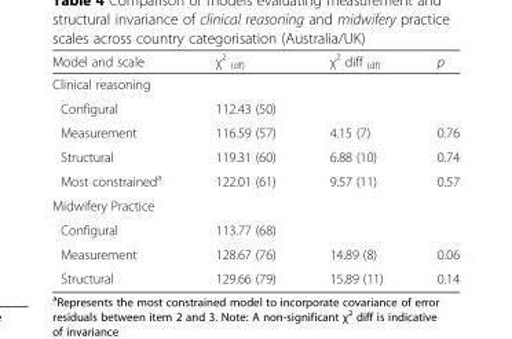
<table><thead><tr><td>Model and scale</td><td>χ<sup>2</sup> <sub>(df)</sub></td><td>χ<sup>2</sup> diff <sub>(df)</sub></td><td>p</td></tr></thead><tbody><tr><td colspan="4">Clinical reasoning</td></tr><tr><td>Configural</td><td>112.43 (50)</td><td></td><td></td></tr><tr><td>Measurement</td><td>116.59 (57)</td><td>4.15 (7)</td><td>0.76</td></tr><tr><td>Structural</td><td>119.31 (60)</td><td>6.88 (10)</td><td>0.74</td></tr><tr><td>Most constrained<sup>a</sup></td><td>122.01 (61)</td><td>9.57 (11)</td><td>0.57</td></tr><tr><td colspan="4">Midwifery Practice</td></tr><tr><td>Configural</td><td>113.77 (68)</td><td></td><td></td></tr><tr><td>Measurement</td><td>128.67 (76)</td><td>14.89 (8)</td><td>0.06</td></tr><tr><td>Structural</td><td>129.66 (79)</td><td>15.89 (11)</td><td>0.14</td></tr></tbody></table>